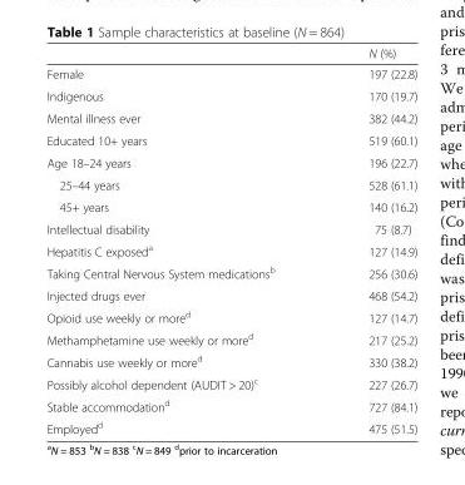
<table><thead><tr><td></td><td>N (%)</td></tr></thead><tbody><tr><td>Female</td><td>197 (22.8)</td></tr><tr><td>Indigenous</td><td>170 (19.7)</td></tr><tr><td>Mental illness ever</td><td>382 (44.2)</td></tr><tr><td>Educated 10+ years</td><td>519 (60.1)</td></tr><tr><td>Age 18–24 years</td><td>196 (22.7)</td></tr><tr><td>25–44 years</td><td>528 (61.1)</td></tr><tr><td>45+ years</td><td>140 (16.2)</td></tr><tr><td>Intellectual disability</td><td>75 (8.7)</td></tr><tr><td>Hepatitis C exposed<sup>a</sup></td><td>127 (14.9)</td></tr><tr><td>Taking Central Nervous System medications<sup>b</sup></td><td>256 (30.6)</td></tr><tr><td>Injected drugs ever</td><td>468 (54.2)</td></tr><tr><td>Opioid use weekly or more<sup>d</sup></td><td>127 (14.7)</td></tr><tr><td>Methamphetamine use weekly or more<sup>d</sup></td><td>217 (25.2)</td></tr><tr><td>Cannabis use weekly or more<sup>d</sup></td><td>330 (38.2)</td></tr><tr><td>Possibly alcohol dependent (AUDIT &gt; 20)<sup>c</sup></td><td>227 (26.7)</td></tr><tr><td>Stable accommodation<sup>d</sup></td><td>727 (84.1)</td></tr><tr><td>Employed<sup>d</sup></td><td>475 (51.5)</td></tr></tbody></table>